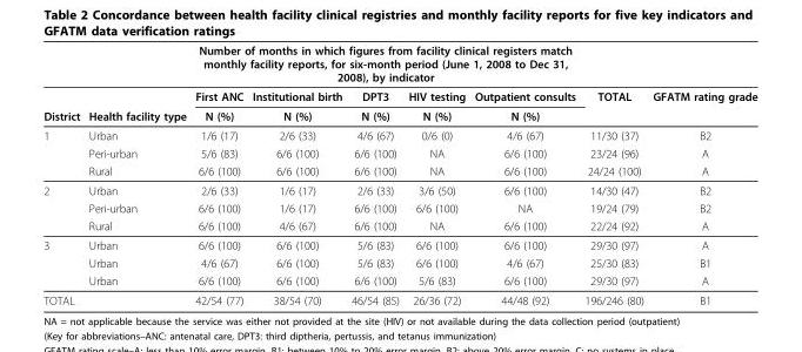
<table><thead><tr><td rowspan="3">District</td><td rowspan="3">Health facility type</td><td colspan="5">Number of months in which figures from facility clinical registers match monthly facility reports, for six-month period (June 1, 2008 to Dec 31, 2008), by indicator</td><td rowspan="3">TOTAL</td><td rowspan="3">GFATM rating grade</td></tr><tr><td rowspan="2">First ANC N (%)</td><td rowspan="2">Institutional birth N (%)</td><td rowspan="2">DPT3 N (%)</td><td rowspan="2">HIV testing N (%)</td><td rowspan="2">Outpatient consults N (%)</td></tr><tr></tr></thead><tbody><tr><td rowspan="3">1</td><td>Urban</td><td>1/6 (17)</td><td>2/6 (33)</td><td>4/6 (67)</td><td>0/6 (0)</td><td>4/6 (67)</td><td>11/30 (37)</td><td>B2</td></tr><tr><td>Peri-urban</td><td>5/6 (83)</td><td>6/6 (100)</td><td>6/6 (100)</td><td>NA</td><td>6/6 (100)</td><td>23/24 (96)</td><td>A</td></tr><tr><td>Rural</td><td>6/6 (100)</td><td>6/6 (100)</td><td>6/6 (100)</td><td>NA</td><td>6/6 (100)</td><td>24/24 (100)</td><td>A</td></tr><tr><td rowspan="3">2</td><td>Urban</td><td>2/6 (33)</td><td>1/6 (17)</td><td>2/6 (33)</td><td>3/6 (50)</td><td>6/6 (100)</td><td>14/30 (47)</td><td>B2</td></tr><tr><td>Peri-urban</td><td>6/6 (100)</td><td>1/6 (17)</td><td>6/6 (100)</td><td>6/6 (100)</td><td>NA</td><td>19/24 (79)</td><td>B2</td></tr><tr><td>Rural</td><td>6/6 (100)</td><td>4/6 (67)</td><td>6/6 (100)</td><td>NA</td><td>6/6 (100)</td><td>22/24 (92)</td><td>A</td></tr><tr><td rowspan="3">3</td><td>Urban</td><td>6/6 (100)</td><td>6/6 (100)</td><td>5/6 (83)</td><td>6/6 (100)</td><td>6/6 (100)</td><td>29/30 (97)</td><td>A</td></tr><tr><td>Urban</td><td>4/6 (67)</td><td>6/6 (100)</td><td>5/6 (83)</td><td>6/6 (100)</td><td>4/6 (67)</td><td>25/30 (83)</td><td>B1</td></tr><tr><td>Urban</td><td>6/6 (100)</td><td>6/6 (100)</td><td>6/6 (100)</td><td>5/6 (83)</td><td>6/6 (100)</td><td>29/30 (97)</td><td>A</td></tr><tr><td colspan="2">TOTAL</td><td>42/54 (77)</td><td>38/54 (70)</td><td>46/54 (85)</td><td>26/36 (72)</td><td>44/48 (92)</td><td>196/246 (80)</td><td>B1</td></tr></tbody></table>